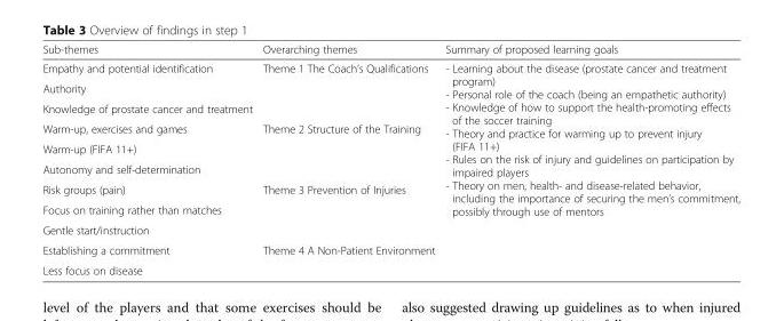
<table><thead><tr><td>Sub-themes</td><td>Overarching themes</td><td>Summary of proposed learning goals</td></tr></thead><tbody><tr><td>Empathy and potential identification</td><td rowspan="3">Theme 1 The Coach’s Qualifications</td><td rowspan="11">- Learning about the disease (prostate cancer and treatment program) - Personal role of the coach (being an empathetic authority) - Knowledge of how to support the health-promoting effects of the soccer training - Theory and practice for warming up to prevent injury (FIFA 11+) - Rules on the risk of injury and guidelines on participation by impaired players - Theory on men, health- and disease-related behavior, including the importance of securing the men’s commitment, possibly through use of mentors</td></tr><tr><td>Authority</td></tr><tr><td>Knowledge of prostate cancer and treatment</td></tr><tr><td>Warm-up, exercises and games</td><td rowspan="3">Theme 2 Structure of the Training</td></tr><tr><td>Warm-up (FIFA 11+)</td></tr><tr><td>Autonomy and self-determination</td></tr><tr><td>Risk groups (pain)</td><td rowspan="3">Theme 3 Prevention of Injuries</td></tr><tr><td>Focus on training rather than matches</td></tr><tr><td>Gentle start/instruction</td></tr><tr><td>Establishing a commitment</td><td rowspan="2">Theme 4 A Non-Patient Environment</td></tr><tr><td>Less focus on disease</td></tr></tbody></table>